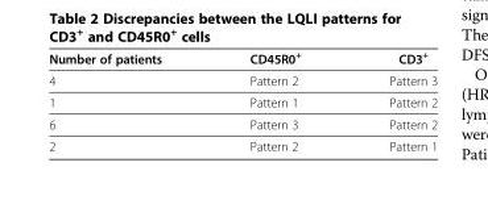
<table><thead><tr><td>Number of patients</td><td>CD45R0<sup>+</sup></td><td>CD3<sup>+</sup></td></tr></thead><tbody><tr><td>4</td><td>Pattern 2</td><td>Pattern 3</td></tr><tr><td>1</td><td>Pattern 1</td><td>Pattern 2</td></tr><tr><td>6</td><td>Pattern 3</td><td>Pattern 2</td></tr><tr><td>2</td><td>Pattern 2</td><td>Pattern 1</td></tr></tbody></table>